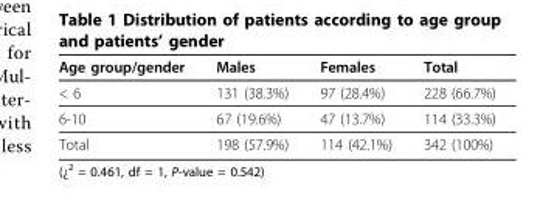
<table><thead><tr><td>Age group/gender</td><td>Males</td><td>Females</td><td>Total</td></tr></thead><tbody><tr><td>&lt; 6</td><td>131 (38.3%)</td><td>97 (28.4%)</td><td>228 (66.7%)</td></tr><tr><td>6-10</td><td>67 (19.6%)</td><td>47 (13.7%)</td><td>114 (33.3%)</td></tr><tr><td>Total</td><td>198 (57.9%)</td><td>114 (42.1%)</td><td>342 (100%)</td></tr></tbody></table>